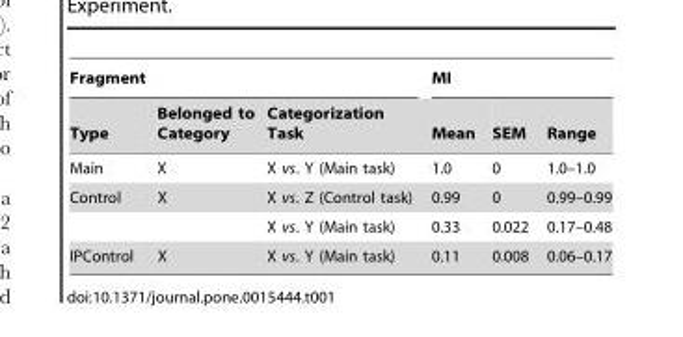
<table><thead><tr><td colspan="3">Fragment</td><td colspan="3">MI</td></tr><tr><td>Type</td><td>Belonged to Category</td><td>Categorization Task</td><td>Mean</td><td>SEM</td><td>Range</td></tr></thead><tbody><tr><td>Main</td><td>X</td><td>X vs. Y (Main task)</td><td>1.0</td><td>0</td><td>1.0–1.0</td></tr><tr><td rowspan="2">Control</td><td>X</td><td>X vs. Z (Control task)</td><td>0.99</td><td>0</td><td>0.99–0.99</td></tr><tr><td></td><td>X vs. Y (Main task)</td><td>0.33</td><td>0.022</td><td>0.17–0.48</td></tr><tr><td>IPControl</td><td>X</td><td>X vs. Y (Main task)</td><td>0.11</td><td>0.008</td><td>0.06–0.17</td></tr></tbody></table>